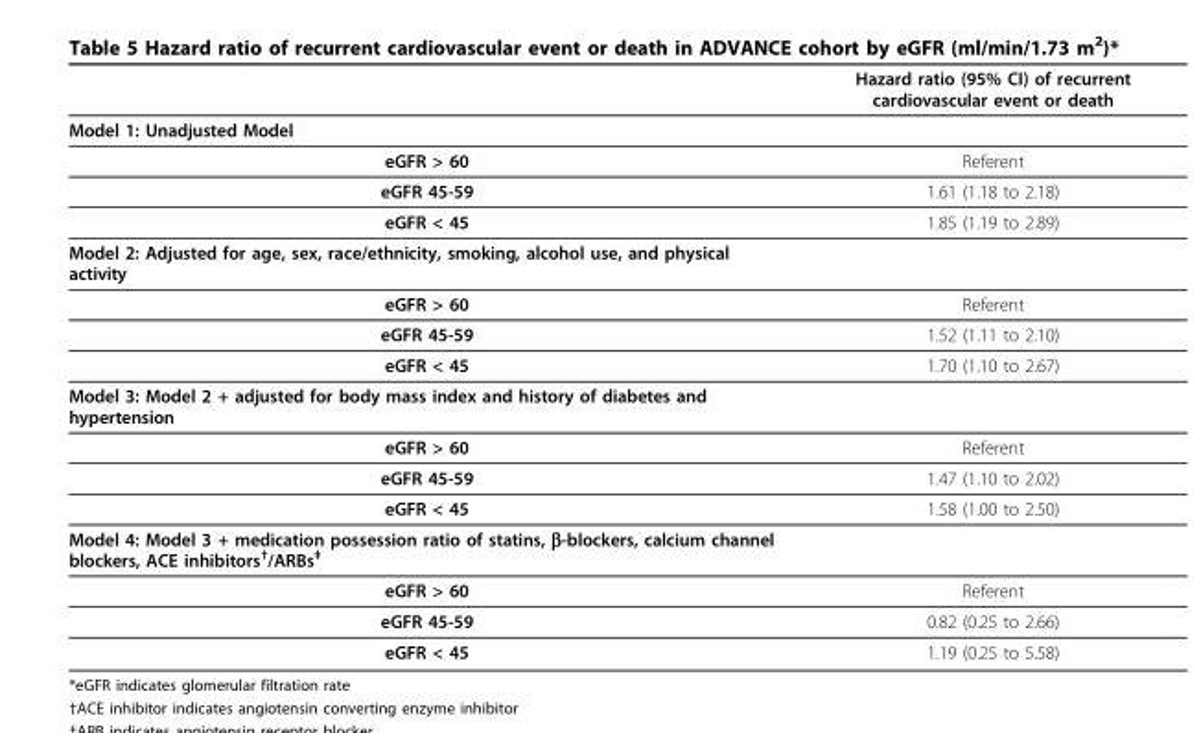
<table><thead><tr><td></td><td>Hazard ratio (95% CI) of recurrent cardiovascular event or death</td></tr></thead><tbody><tr><td colspan="2">Model 1: Unadjusted Model</td></tr><tr><td>eGFR &gt; 60</td><td>Referent</td></tr><tr><td>eGFR 45-59</td><td>1.61 (1.18 to 2.18)</td></tr><tr><td>eGFR &lt; 45</td><td>1.85 (1.19 to 2.89)</td></tr><tr><td colspan="2">Model 2: Adjusted for age, sex, race/ethnicity, smoking, alcohol use, and physical activity</td></tr><tr><td>eGFR &gt; 60</td><td>Referent</td></tr><tr><td>eGFR 45-59</td><td>1.52 (1.11 to 2.10)</td></tr><tr><td>eGFR &lt; 45</td><td>1.70 (1.10 to 2.67)</td></tr><tr><td colspan="2">Model 3: Model 2 + adjusted for body mass index and history of diabetes and hypertension</td></tr><tr><td>eGFR &gt; 60</td><td>Referent</td></tr><tr><td>eGFR 45-59</td><td>1.47 (1.10 to 2.02)</td></tr><tr><td>eGFR &lt; 45</td><td>1.58 (1.00 to 2.50)</td></tr><tr><td colspan="2">Model 4: Model 3 + medication possession ratio of statins, β-blockers, calcium channel blockers, ACE inhibitors<sup>†</sup>/ARBs<sup>‡</sup></td></tr><tr><td>eGFR &gt; 60</td><td>Referent</td></tr><tr><td>eGFR 45-59</td><td>0.82 (0.25 to 2.66)</td></tr><tr><td>eGFR &lt; 45</td><td>1.19 (0.25 to 5.58)</td></tr></tbody></table>